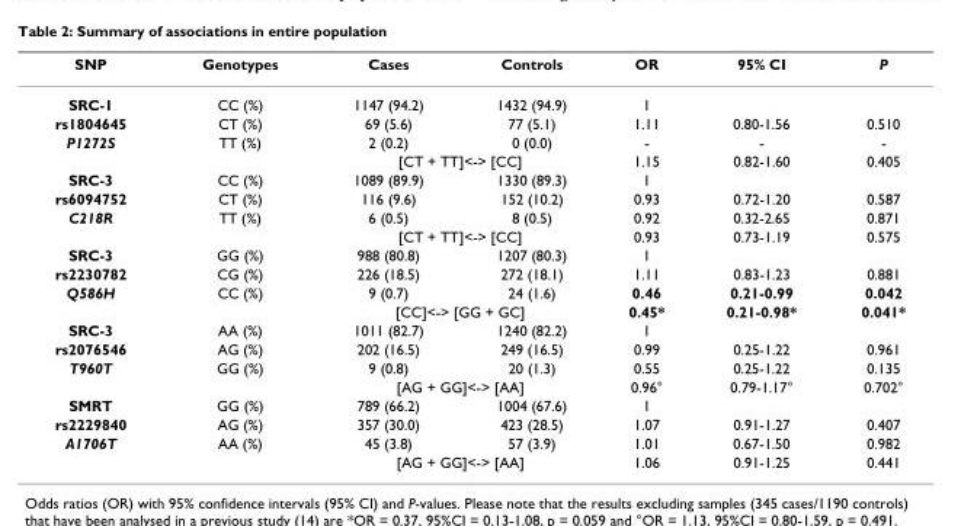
<table><thead><tr><td>SNP</td><td>Genotypes</td><td>Cases</td><td>Controls</td><td>OR</td><td>95% CI</td><td>P</td></tr></thead><tbody><tr><td>SRC-1</td><td>CC (%)</td><td>1147 (94.2)</td><td>1432 (94.9)</td><td>1</td><td></td><td></td></tr><tr><td>rs1804645</td><td>CT (%)</td><td>69 (5.6)</td><td>77 (5.1)</td><td>1.11</td><td>0.80-1.56</td><td>0.510</td></tr><tr><td rowspan="2">P1272S</td><td>TT (%)</td><td>2 (0.2)</td><td>0 (0.0)</td><td>-</td><td>-</td><td>-</td></tr><tr><td></td><td colspan="2">[CT + TT]&lt;-&gt; [CC]</td><td>1.15</td><td>0.82-1.60</td><td>0.405</td></tr><tr><td>SRC-3</td><td>CC (%)</td><td>1089 (89.9)</td><td>1330 (89.3)</td><td>1</td><td></td><td></td></tr><tr><td>rs6094752</td><td>CT (%)</td><td>116 (9.6)</td><td>152 (10.2)</td><td>0.93</td><td>0.72-1.20</td><td>0.587</td></tr><tr><td rowspan="2">C218R</td><td>TT (%)</td><td>6 (0.5)</td><td>8 (0.5)</td><td>0.92</td><td>0.32-2.65</td><td>0.871</td></tr><tr><td></td><td colspan="2">[CT + TT]&lt;-&gt; [CC]</td><td>0.93</td><td>0.73-1.19</td><td>0.575</td></tr><tr><td>SRC-3</td><td>GG (%)</td><td>988 (80.8)</td><td>1207 (80.3)</td><td>1</td><td></td><td></td></tr><tr><td>rs2230782</td><td>CG (%)</td><td>226 (18.5)</td><td>272 (18.1)</td><td>1.11</td><td>0.83-1.23</td><td>0.881</td></tr><tr><td rowspan="2">Q586H</td><td>CC (%)</td><td>9 (0.7)</td><td>24 (1.6)</td><td>0.46</td><td>0.21-0.99</td><td>0.042</td></tr><tr><td></td><td colspan="2">[CC]&lt;-&gt; [GG + GC]</td><td>0.45*</td><td>0.21-0.98*</td><td>0.041*</td></tr><tr><td>SRC-3</td><td>AA (%)</td><td>1011 (82.7)</td><td>1240 (82.2)</td><td>1</td><td></td><td></td></tr><tr><td>rs2076546</td><td>AG (%)</td><td>202 (16.5)</td><td>249 (16.5)</td><td>0.99</td><td>0.25-1.22</td><td>0.961</td></tr><tr><td rowspan="2">T960T</td><td>GG (%)</td><td>9 (0.8)</td><td>20 (1.3)</td><td>0.55</td><td>0.25-1.22</td><td>0.135</td></tr><tr><td></td><td colspan="2">[AG + GG]&lt;-&gt; [AA]</td><td>0.96°</td><td>0.79-1.17°</td><td>0.702°</td></tr><tr><td>SMRT</td><td>GG (%)</td><td>789 (66.2)</td><td>1004 (67.6)</td><td>1</td><td></td><td></td></tr><tr><td>rs2229840</td><td>AG (%)</td><td>357 (30.0)</td><td>423 (28.5)</td><td>1.07</td><td>0.91-1.27</td><td>0.407</td></tr><tr><td rowspan="2">A1706T</td><td>AA (%)</td><td>45 (3.8)</td><td>57 (3.9)</td><td>1.01</td><td>0.67-1.50</td><td>0.982</td></tr><tr><td></td><td colspan="2">[AG + GG]&lt;-&gt; [AA]</td><td>1.06</td><td>0.91-1.25</td><td>0.441</td></tr></tbody></table>